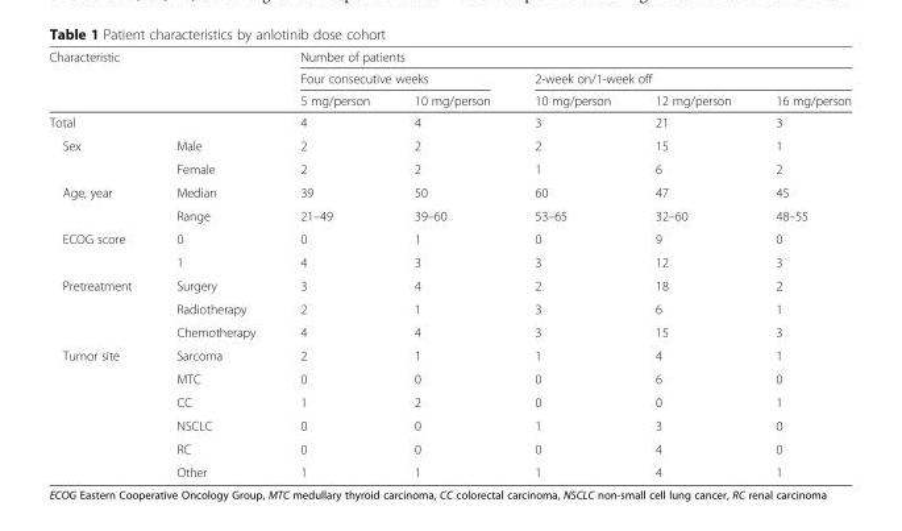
<table><thead><tr><td rowspan="3" colspan="2">Characteristic</td><td colspan="5">Number of patients</td></tr><tr><td colspan="2">Four consecutive weeks</td><td colspan="3">2-week on/1-week off</td></tr><tr><td rowspan="2">5 mg/person 4</td><td rowspan="2">10 mg/person 4</td><td rowspan="2">10 mg/person 3</td><td rowspan="2">12 mg/person 21</td><td rowspan="2">16 mg/person 3</td></tr><tr><td>Total</td><td></td></tr></thead><tbody><tr><td rowspan="2">Sex</td><td>Male</td><td>2</td><td>2</td><td>2</td><td>15</td><td>1</td></tr><tr><td>Female</td><td>2</td><td>2</td><td>1</td><td>6</td><td>2</td></tr><tr><td rowspan="2">Age, year</td><td>Median</td><td>39</td><td>50</td><td>60</td><td>47</td><td>45</td></tr><tr><td>Range</td><td>21–49</td><td>39–60</td><td>53–65</td><td>32–60</td><td>48–55</td></tr><tr><td rowspan="2">ECOG score</td><td>0</td><td>0</td><td>1</td><td>0</td><td>9</td><td>0</td></tr><tr><td>1</td><td>4</td><td>3</td><td>3</td><td>12</td><td>3</td></tr><tr><td rowspan="3">Pretreatment</td><td>Surgery</td><td>3</td><td>4</td><td>2</td><td>18</td><td>2</td></tr><tr><td>Radiotherapy</td><td>2</td><td>1</td><td>3</td><td>6</td><td>1</td></tr><tr><td>Chemotherapy</td><td>4</td><td>4</td><td>3</td><td>15</td><td>3</td></tr><tr><td rowspan="6">Tumor site</td><td>Sarcoma</td><td>2</td><td>1</td><td>1</td><td>4</td><td>1</td></tr><tr><td>MTC</td><td>0</td><td>0</td><td>0</td><td>6</td><td>0</td></tr><tr><td>CC</td><td>1</td><td>2</td><td>0</td><td>0</td><td>1</td></tr><tr><td>NSCLC</td><td>0</td><td>0</td><td>1</td><td>3</td><td>0</td></tr><tr><td>RC</td><td>0</td><td>0</td><td>0</td><td>4</td><td>0</td></tr><tr><td>Other</td><td>1</td><td>1</td><td>1</td><td>4</td><td>1</td></tr></tbody></table>